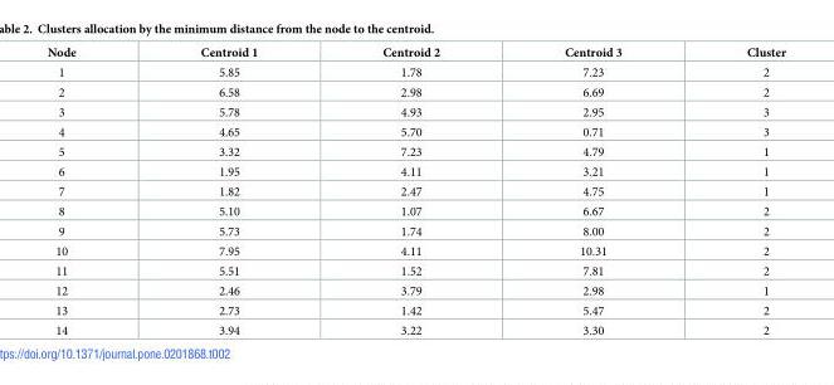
<table><thead><tr><td>Node</td><td>Centroid 1</td><td>Centroid 2</td><td>Centroid 3</td><td>Cluster</td></tr></thead><tbody><tr><td>1</td><td>5.85</td><td>1.78</td><td>7.23</td><td>2</td></tr><tr><td>2</td><td>6.58</td><td>2.98</td><td>6.69</td><td>2</td></tr><tr><td>3</td><td>5.78</td><td>4.93</td><td>2.95</td><td>3</td></tr><tr><td>4</td><td>4.65</td><td>5.70</td><td>0.71</td><td>3</td></tr><tr><td>5</td><td>3.32</td><td>7.23</td><td>4.79</td><td>1</td></tr><tr><td>6</td><td>1.95</td><td>4.11</td><td>3.21</td><td>1</td></tr><tr><td>7</td><td>1.82</td><td>2.47</td><td>4.75</td><td>1</td></tr><tr><td>8</td><td>5.10</td><td>1.07</td><td>6.67</td><td>2</td></tr><tr><td>9</td><td>5.73</td><td>1.74</td><td>8.00</td><td>2</td></tr><tr><td>10</td><td>7.95</td><td>4.11</td><td>10.31</td><td>2</td></tr><tr><td>11</td><td>5.51</td><td>1.52</td><td>7.81</td><td>2</td></tr><tr><td>12</td><td>2.46</td><td>3.79</td><td>2.98</td><td>1</td></tr><tr><td>13</td><td>2.73</td><td>1.42</td><td>5.47</td><td>2</td></tr><tr><td>14</td><td>3.94</td><td>3.22</td><td>3.30</td><td>2</td></tr></tbody></table>